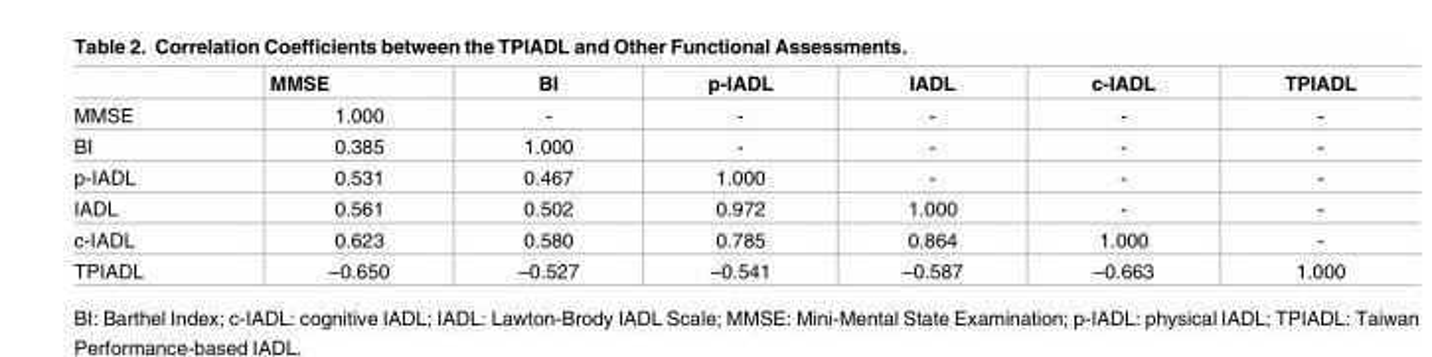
<table><thead><tr><td></td><td>MMSE</td><td>BI</td><td>p-IADL</td><td>IADL</td><td>c-IADL</td><td>TPIADL</td></tr></thead><tbody><tr><td>MMSE</td><td>1.000</td><td>-</td><td>-</td><td>-</td><td>-</td><td>-</td></tr><tr><td>BI</td><td>0.385</td><td>1.000</td><td>-</td><td>-</td><td>-</td><td>-</td></tr><tr><td>p-IADL</td><td>0.531</td><td>0.467</td><td>1.000</td><td>-</td><td>-</td><td>-</td></tr><tr><td>IADL</td><td>0.561</td><td>0.502</td><td>0.972</td><td>1.000</td><td>-</td><td>-</td></tr><tr><td>c-IADL</td><td>0.623</td><td>0.580</td><td>0.785</td><td>0.864</td><td>1.000</td><td>-</td></tr><tr><td>TPIADL</td><td>–0.650</td><td>–0.527</td><td>–0.541</td><td>–0.587</td><td>–0.663</td><td>1.000</td></tr></tbody></table>